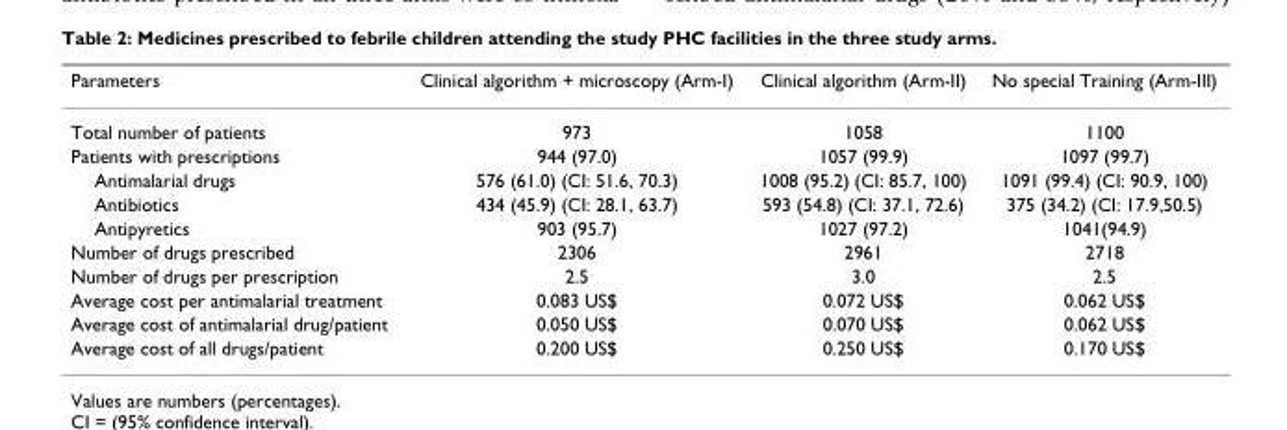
<table><thead><tr><td>Parameters</td><td>Clinical algorithm + microscopy (Arm-I)</td><td>Clinical algorithm (Arm-II)</td><td>No special Training (Arm-III)</td></tr></thead><tbody><tr><td>Total number of patients</td><td>973</td><td>1058</td><td>1100</td></tr><tr><td>Patients with prescriptions</td><td>944 (97.0)</td><td>1057 (99.9)</td><td>1097 (99.7)</td></tr><tr><td>Antimalarial drugs</td><td>576 (61.0) (CI: 51.6, 70.3)</td><td>1008 (95.2) (CI: 85.7, 100)</td><td>1091 (99.4) (CI: 90.9, 100)</td></tr><tr><td>Antibiotics</td><td>434 (45.9) (CI: 28.1, 63.7)</td><td>593 (54.8) (CI: 37.1, 72.6)</td><td>375 (34.2) (CI: 17.9,50.5)</td></tr><tr><td>Antipyretics</td><td>903 (95.7)</td><td>1027 (97.2)</td><td>1041(94.9)</td></tr><tr><td>Number of drugs prescribed</td><td>2306</td><td>2961</td><td>2718</td></tr><tr><td>Number of drugs per prescription</td><td>2.5</td><td>3.0</td><td>2.5</td></tr><tr><td>Average cost per antimalarial treatment</td><td>0.083 US$</td><td>0.072 US$</td><td>0.062 US$</td></tr><tr><td>Average cost of antimalarial drug/patient</td><td>0.050 US$</td><td>0.070 US$</td><td>0.062 US$</td></tr><tr><td>Average cost of all drugs/patient</td><td>0.200 US$</td><td>0.250 US$</td><td>0.170 US$</td></tr></tbody></table>